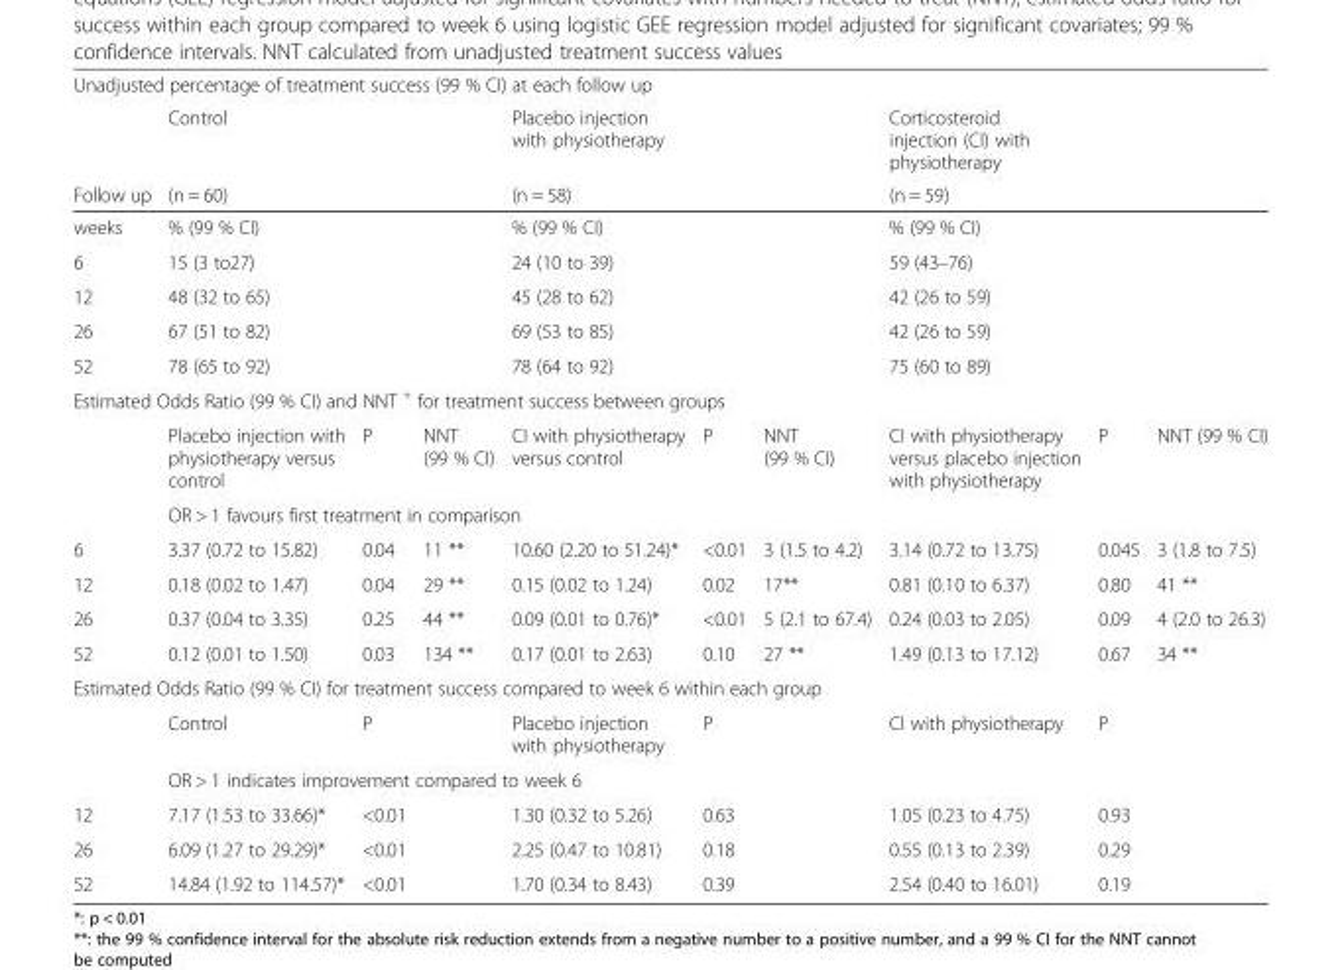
<table><thead><tr><td colspan="10">Unadjusted percentage of treatment success (99 % CI) at each follow up</td></tr><tr><td rowspan="2">Follow up</td><td rowspan="2" colspan="3">Control (n = 60)</td><td rowspan="2" colspan="3">Placebo injection with physiotherapy (n = 58)</td><td rowspan="2" colspan="3">Corticosteroid injection (CI) with physiotherapy (n = 59)</td></tr><tr></tr></thead><tbody><tr><td>weeks</td><td colspan="3">% (99 % CI)</td><td colspan="3">% (99 % CI)</td><td colspan="3">% (99 % CI)</td></tr><tr><td>6</td><td colspan="3">15 (3 to27)</td><td colspan="3">24 (10 to 39)</td><td colspan="3">59 (43–76)</td></tr><tr><td>12</td><td colspan="3">48 (32 to 65)</td><td colspan="3">45 (28 to 62)</td><td colspan="3">42 (26 to 59)</td></tr><tr><td>26</td><td colspan="3">67 (51 to 82)</td><td colspan="3">69 (53 to 85)</td><td colspan="3">42 (26 to 59)</td></tr><tr><td>52</td><td colspan="3">78 (65 to 92)</td><td colspan="3">78 (64 to 92)</td><td colspan="3">75 (60 to 89)</td></tr><tr><td colspan="10">Estimated Odds Ratio (99 % CI) and NNT <sup>+</sup> for treatment success between groups</td></tr><tr><td></td><td>Placebo injection with physiotherapy versus control</td><td>P</td><td>NNT (99 % CI)</td><td>CI with physiotherapy versus control</td><td>P</td><td>NNT (99 % CI)</td><td>CI with physiotherapy versus placebo injection with physiotherapy</td><td>P</td><td>NNT (99 % CI)</td></tr><tr><td></td><td colspan="9">OR &gt; 1 favours first treatment in comparison</td></tr><tr><td>6</td><td>3.37 (0.72 to 15.82)</td><td>0.04</td><td>11 **</td><td>10.60 (2.20 to 51.24)*</td><td>&lt;0.01</td><td>3 (1.5 to 4.2)</td><td>3.14 (0.72 to 13.75)</td><td>0.045</td><td>3 (1.8 to 7.5)</td></tr><tr><td>12</td><td>0.18 (0.02 to 1.47)</td><td>0.04</td><td>29 **</td><td>0.15 (0.02 to 1.24)</td><td>0.02</td><td>17**</td><td>0.81 (0.10 to 6.37)</td><td>0.80</td><td>41 **</td></tr><tr><td>26</td><td>0.37 (0.04 to 3.35)</td><td>0.25</td><td>44 **</td><td>0.09 (0.01 to 0.76)*</td><td>&lt;0.01</td><td>5 (2.1 to 67.4)</td><td>0.24 (0.03 to 2.05)</td><td>0.09</td><td>4 (2.0 to 26.3)</td></tr><tr><td>52</td><td>0.12 (0.01 to 1.50)</td><td>0.03</td><td>134 **</td><td>0.17 (0.01 to 2.63)</td><td>0.10</td><td>27 **</td><td>1.49 (0.13 to 17.12)</td><td>0.67</td><td>34 **</td></tr><tr><td colspan="10">Estimated Odds Ratio (99 % CI) for treatment success compared to week 6 within each group</td></tr><tr><td></td><td>Control</td><td>P</td><td></td><td>Placebo injection with physiotherapy</td><td>P</td><td></td><td>CI with physiotherapy</td><td>P</td><td></td></tr><tr><td></td><td colspan="9">OR &gt; 1 indicates improvement compared to week 6</td></tr><tr><td>12</td><td>7.17 (1.53 to 33.66)*</td><td>&lt;0.01</td><td></td><td>1.30 (0.32 to 5.26)</td><td>0.63</td><td></td><td>1.05 (0.23 to 4.75)</td><td>0.93</td><td></td></tr><tr><td>26</td><td>6.09 (1.27 to 29.29)*</td><td>&lt;0.01</td><td></td><td>2.25 (0.47 to 10.81)</td><td>0.18</td><td></td><td>0.55 (0.13 to 2.39)</td><td>0.29</td><td></td></tr><tr><td>52</td><td>14.84 (1.92 to 114.57)*</td><td>&lt;0.01</td><td></td><td>1.70 (0.34 to 8.43)</td><td>0.39</td><td></td><td>2.54 (0.40 to 16.01)</td><td>0.19</td><td></td></tr></tbody></table>